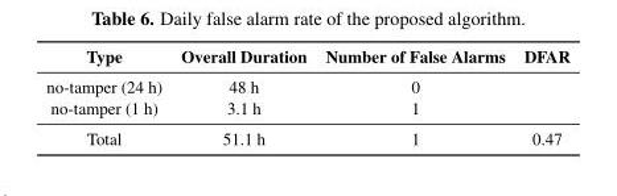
<table><thead><tr><td>Type</td><td>Overall Duration</td><td>Number of False Alarms</td><td>DFAR</td></tr></thead><tbody><tr><td>no-tamper (24 h)</td><td>48 h</td><td>0</td><td></td></tr><tr><td>no-tamper (1 h)</td><td>3.1 h</td><td>1</td><td></td></tr><tr><td>Total</td><td>51.1 h</td><td>1</td><td>0.47</td></tr></tbody></table>